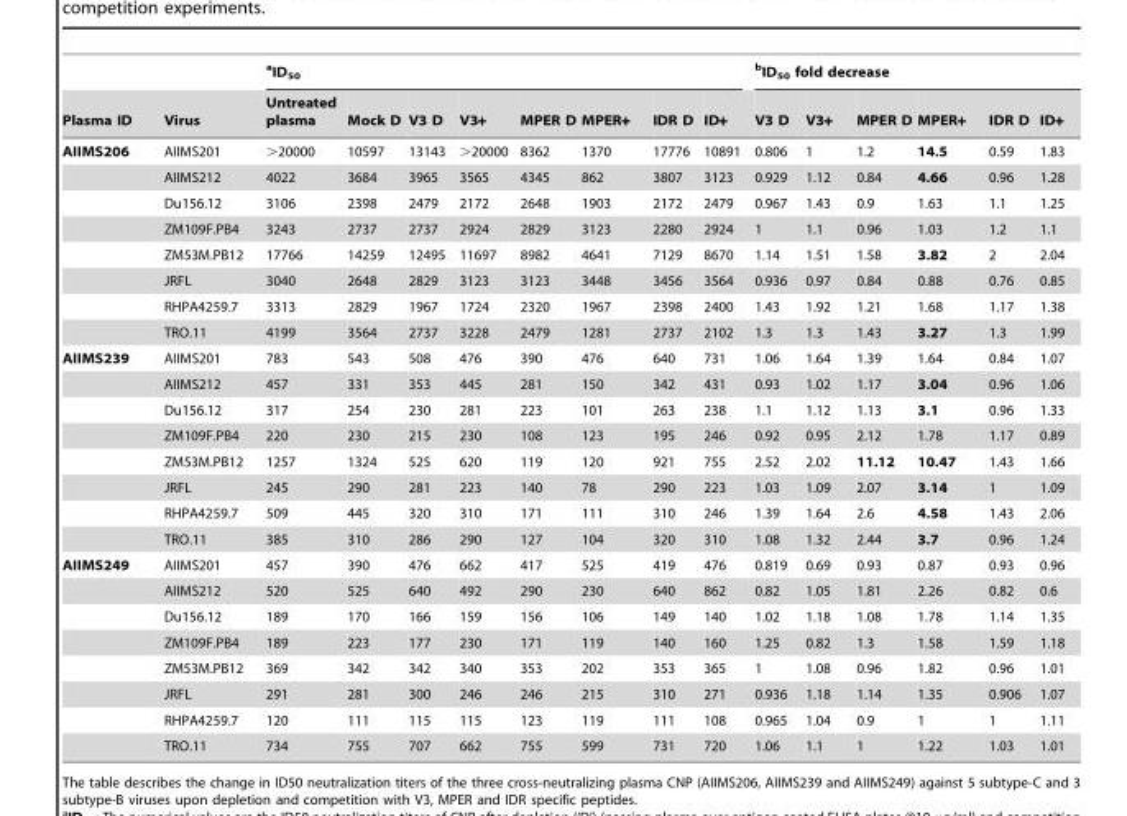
<table><thead><tr><td rowspan="2">Plasma ID</td><td rowspan="2">Virus</td><td colspan="8">aID<sub>50</sub></td><td colspan="6">bID<sub>50</sub> fold decrease</td></tr><tr><td>Untreated plasma</td><td>Mock D</td><td>V3 D</td><td>V3+</td><td>MPER D</td><td>MPER+</td><td>IDR D</td><td>ID+</td><td>V3 D</td><td>V3+</td><td>MPER D</td><td>MPER+</td><td>IDR D</td><td>ID+</td></tr></thead><tbody><tr><td rowspan="8">AIIMS206</td><td>AIIMS201</td><td>&gt;20000</td><td>10597</td><td>13143</td><td>&gt;20000</td><td>8362</td><td>1370</td><td>17776</td><td>10891</td><td>0.806</td><td>1</td><td>1.2</td><td>14.5</td><td>0.59</td><td>1.83</td></tr><tr><td>AIIMS212</td><td>4022</td><td>3684</td><td>3965</td><td>3565</td><td>4345</td><td>862</td><td>3807</td><td>3123</td><td>0.929</td><td>1.12</td><td>0.84</td><td>4.66</td><td>0.96</td><td>1.28</td></tr><tr><td>Du156.12</td><td>3106</td><td>2398</td><td>2479</td><td>2172</td><td>2648</td><td>1903</td><td>2172</td><td>2479</td><td>0.967</td><td>1.43</td><td>0.9</td><td>1.63</td><td>1.1</td><td>1.25</td></tr><tr><td>ZM109F.PB4</td><td>3243</td><td>2737</td><td>2737</td><td>2924</td><td>2829</td><td>3123</td><td>2280</td><td>2924</td><td>1</td><td>1.1</td><td>0.96</td><td>1.03</td><td>1.2</td><td>1.1</td></tr><tr><td>ZM53M.PB12</td><td>17766</td><td>14259</td><td>12495</td><td>11697</td><td>8982</td><td>4641</td><td>7129</td><td>8670</td><td>1.14</td><td>1.51</td><td>1.58</td><td>3.82</td><td>2</td><td>2.04</td></tr><tr><td>JRFL</td><td>3040</td><td>2648</td><td>2829</td><td>3123</td><td>3123</td><td>3448</td><td>3456</td><td>3564</td><td>0.936</td><td>0.97</td><td>0.84</td><td>0.88</td><td>0.76</td><td>0.85</td></tr><tr><td>RHPA4259.7</td><td>3313</td><td>2829</td><td>1967</td><td>1724</td><td>2320</td><td>1967</td><td>2398</td><td>2400</td><td>1.43</td><td>1.92</td><td>1.21</td><td>1.68</td><td>1.17</td><td>1.38</td></tr><tr><td>TRO.11</td><td>4199</td><td>3564</td><td>2737</td><td>3228</td><td>2479</td><td>1281</td><td>2737</td><td>2102</td><td>1.3</td><td>1.3</td><td>1.43</td><td>3.27</td><td>1.3</td><td>1.99</td></tr><tr><td rowspan="8">AIIMS239</td><td>AIIMS201</td><td>783</td><td>543</td><td>508</td><td>476</td><td>390</td><td>476</td><td>640</td><td>731</td><td>1.06</td><td>1.64</td><td>1.39</td><td>1.64</td><td>0.84</td><td>1.07</td></tr><tr><td>AIIMS212</td><td>457</td><td>331</td><td>353</td><td>445</td><td>281</td><td>150</td><td>342</td><td>431</td><td>0.93</td><td>1.02</td><td>1.17</td><td>3.04</td><td>0.96</td><td>1.06</td></tr><tr><td>Du156.12</td><td>317</td><td>254</td><td>230</td><td>281</td><td>223</td><td>101</td><td>263</td><td>238</td><td>1.1</td><td>1.12</td><td>1.13</td><td>3.1</td><td>0.96</td><td>1.33</td></tr><tr><td>ZM109F.PB4</td><td>220</td><td>230</td><td>215</td><td>230</td><td>108</td><td>123</td><td>195</td><td>246</td><td>0.92</td><td>0.95</td><td>2.12</td><td>1.78</td><td>1.17</td><td>0.89</td></tr><tr><td>ZM53M.PB12</td><td>1257</td><td>1324</td><td>525</td><td>620</td><td>119</td><td>120</td><td>921</td><td>755</td><td>2.52</td><td>2.02</td><td>11.12</td><td>10.47</td><td>1.43</td><td>1.66</td></tr><tr><td>JRFL</td><td>245</td><td>290</td><td>281</td><td>223</td><td>140</td><td>78</td><td>290</td><td>223</td><td>1.03</td><td>1.09</td><td>2.07</td><td>3.14</td><td>1</td><td>1.09</td></tr><tr><td>RHPA4259.7</td><td>509</td><td>445</td><td>320</td><td>310</td><td>171</td><td>111</td><td>310</td><td>246</td><td>1.39</td><td>1.64</td><td>2.6</td><td>4.58</td><td>1.43</td><td>2.06</td></tr><tr><td>TRO.11</td><td>385</td><td>310</td><td>286</td><td>290</td><td>127</td><td>104</td><td>320</td><td>310</td><td>1.08</td><td>1.32</td><td>2.44</td><td>3.7</td><td>0.96</td><td>1.24</td></tr><tr><td rowspan="8">AIIMS249</td><td>AIIMS201</td><td>457</td><td>390</td><td>476</td><td>662</td><td>417</td><td>525</td><td>419</td><td>476</td><td>0.819</td><td>0.69</td><td>0.93</td><td>0.87</td><td>0.93</td><td>0.96</td></tr><tr><td>AIIMS212</td><td>520</td><td>525</td><td>640</td><td>492</td><td>290</td><td>230</td><td>640</td><td>862</td><td>0.82</td><td>1.05</td><td>1.81</td><td>2.26</td><td>0.82</td><td>0.6</td></tr><tr><td>Du156.12</td><td>189</td><td>170</td><td>166</td><td>159</td><td>156</td><td>106</td><td>149</td><td>140</td><td>1.02</td><td>1.18</td><td>1.08</td><td>1.78</td><td>1.14</td><td>1.35</td></tr><tr><td>ZM109F.PB4</td><td>189</td><td>223</td><td>177</td><td>230</td><td>171</td><td>119</td><td>140</td><td>160</td><td>1.25</td><td>0.82</td><td>1.3</td><td>1.58</td><td>1.59</td><td>1.18</td></tr><tr><td>ZM53M.PB12</td><td>369</td><td>342</td><td>342</td><td>340</td><td>353</td><td>202</td><td>353</td><td>365</td><td>1</td><td>1.08</td><td>0.96</td><td>1.82</td><td>0.96</td><td>1.01</td></tr><tr><td>JRFL</td><td>291</td><td>281</td><td>300</td><td>246</td><td>246</td><td>215</td><td>310</td><td>271</td><td>0.936</td><td>1.18</td><td>1.14</td><td>1.35</td><td>0.906</td><td>1.07</td></tr><tr><td>RHPA4259.7</td><td>120</td><td>111</td><td>115</td><td>115</td><td>123</td><td>119</td><td>111</td><td>108</td><td>0.965</td><td>1.04</td><td>0.9</td><td>1</td><td>1</td><td>1.11</td></tr><tr><td>TRO.11</td><td>734</td><td>755</td><td>707</td><td>662</td><td>755</td><td>599</td><td>731</td><td>720</td><td>1.06</td><td>1.1</td><td>1</td><td>1.22</td><td>1.03</td><td>1.01</td></tr></tbody></table>